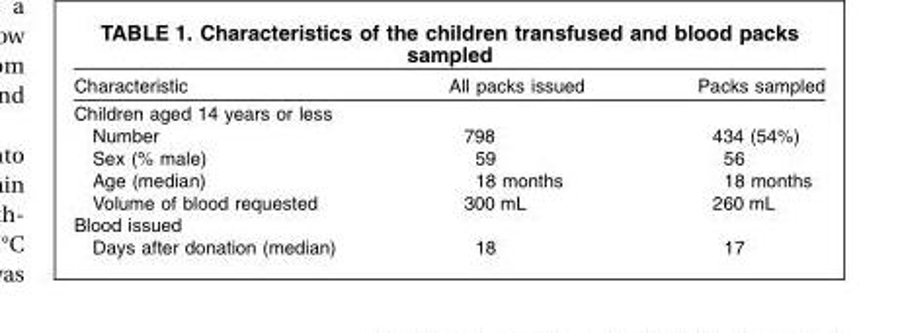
<table><thead><tr><td>Characteristic</td><td>All packs issued</td><td>Packs sampled</td></tr></thead><tbody><tr><td colspan="3">Children aged 14 years or less</td></tr><tr><td>Number</td><td>798</td><td>434 (54%)</td></tr><tr><td>Sex (% male)</td><td>59</td><td>56</td></tr><tr><td>Age (median)</td><td>18 months</td><td>18 months</td></tr><tr><td>Volume of blood requested</td><td>300 mL</td><td>260 mL</td></tr><tr><td colspan="3">Blood issued</td></tr><tr><td>Days after donation (median)</td><td>18</td><td>17</td></tr></tbody></table>